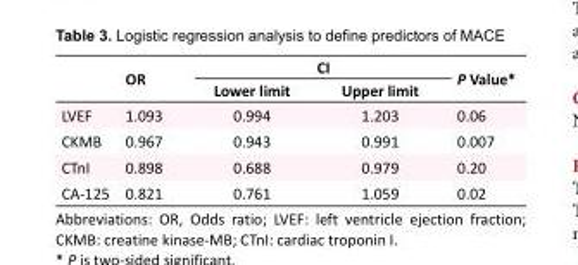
<table><thead><tr><td rowspan="2"></td><td rowspan="2">OR</td><td colspan="2">CI</td><td rowspan="2">P Value*</td></tr><tr><td>Lower limit</td><td>Upper limit</td></tr></thead><tbody><tr><td>LVEF</td><td>1.093</td><td>0.994</td><td>1.203</td><td>0.06</td></tr><tr><td>CKMB</td><td>0.967</td><td>0.943</td><td>0.991</td><td>0.007</td></tr><tr><td>CTnI</td><td>0.898</td><td>0.688</td><td>0.979</td><td>0.20</td></tr><tr><td>CA-125</td><td>0.821</td><td>0.761</td><td>1.059</td><td>0.02</td></tr></tbody></table>